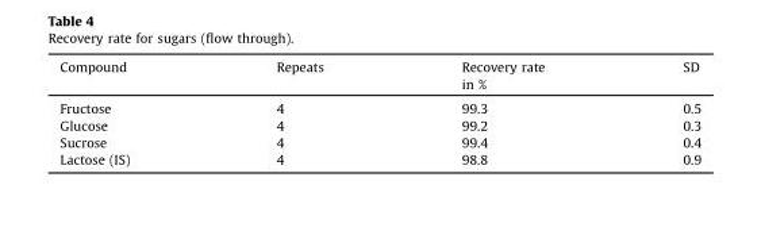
<table><thead><tr><td>Compound</td><td>Repeats</td><td>Recovery rate in %</td><td>SD</td></tr></thead><tbody><tr><td>Fructose</td><td>4</td><td>99.3</td><td>0.5</td></tr><tr><td>Glucose</td><td>4</td><td>99.2</td><td>0.3</td></tr><tr><td>Sucrose</td><td>4</td><td>99.4</td><td>0.4</td></tr><tr><td>Lactose (IS)</td><td>4</td><td>98.8</td><td>0.9</td></tr></tbody></table>